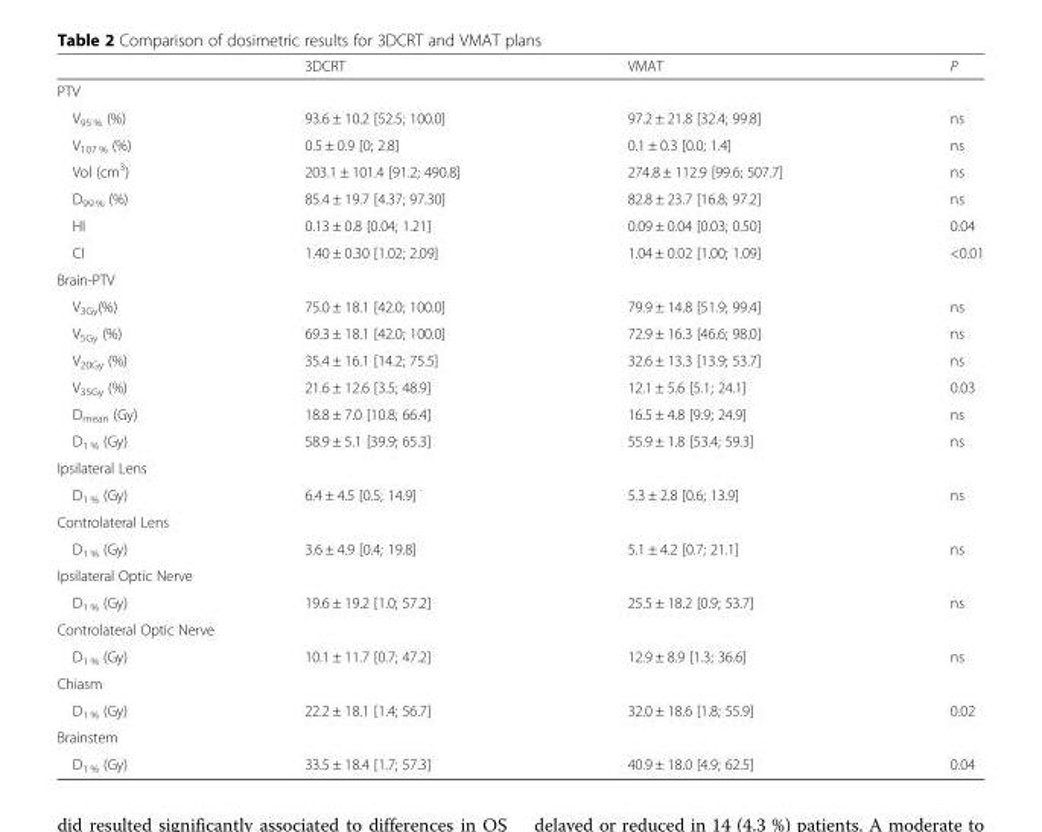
<table><thead><tr><td></td><td>3DCRT</td><td>VMAT</td><td>P</td></tr></thead><tbody><tr><td colspan="4">PTV</td></tr><tr><td>V<sub>95 %</sub> (%)</td><td>93.6 ± 10.2 [52.5; 100.0]</td><td>97.2 ± 21.8 [32.4; 99.8]</td><td>ns</td></tr><tr><td>V<sub>107 %</sub> (%)</td><td>0.5 ± 0.9 [0; 2.8]</td><td>0.1 ± 0.3 [0.0; 1.4]</td><td>ns</td></tr><tr><td>Vol (cm<sup>3</sup>)</td><td>203.1 ± 101.4 [91.2; 490.8]</td><td>274.8 ± 112.9 [99.6; 507.7]</td><td>ns</td></tr><tr><td>D<sub>99 %</sub> (%)</td><td>85.4 ± 19.7 [4.37; 97.30]</td><td>82.8 ± 23.7 [16.8; 97.2]</td><td>ns</td></tr><tr><td>HI</td><td>0.13 ± 0.8 [0.04; 1.21]</td><td>0.09 ± 0.04 [0.03; 0.50]</td><td>0.04</td></tr><tr><td>CI</td><td>1.40 ± 0.30 [1.02; 2.09]</td><td>1.04 ± 0.02 [1.00; 1.09]</td><td>&lt;0.01</td></tr><tr><td colspan="4">Brain-PTV</td></tr><tr><td>V<sub>3Gy</sub>(%)</td><td>75.0 ± 18.1 [42.0; 100.0]</td><td>79.9 ± 14.8 [51.9; 99.4]</td><td>ns</td></tr><tr><td>V<sub>5Gy</sub> (%)</td><td>69.3 ± 18.1 [42.0; 100.0]</td><td>72.9 ± 16.3 [46.6; 98.0]</td><td>ns</td></tr><tr><td>V<sub>20Gy</sub> (%)</td><td>35.4 ± 16.1 [14.2; 75.5]</td><td>32.6 ± 13.3 [13.9; 53.7]</td><td>ns</td></tr><tr><td>V<sub>35Gy</sub> (%)</td><td>21.6 ± 12.6 [3.5; 48.9]</td><td>12.1 ± 5.6 [5.1; 24.1]</td><td>0.03</td></tr><tr><td>D<sub>mean</sub> (Gy)</td><td>18.8 ± 7.0 [10.8; 66.4]</td><td>16.5 ± 4.8 [9.9; 24.9]</td><td>ns</td></tr><tr><td>D<sub>1 %</sub> (Gy)</td><td>58.9 ± 5.1 [39.9; 65.3]</td><td>55.9 ± 1.8 [53.4; 59.3]</td><td>ns</td></tr><tr><td colspan="4">Ipsilateral Lens</td></tr><tr><td>D<sub>1 %</sub> (Gy)</td><td>6.4 ± 4.5 [0.5; 14.9]</td><td>5.3 ± 2.8 [0.6; 13.9]</td><td>ns</td></tr><tr><td colspan="4">Controlateral Lens</td></tr><tr><td>D<sub>1 %</sub> (Gy)</td><td>3.6 ± 4.9 [0.4; 19.8]</td><td>5.1 ± 4.2 [0.7; 21.1]</td><td>ns</td></tr><tr><td colspan="4">Ipsilateral Optic Nerve</td></tr><tr><td>D<sub>1 %</sub> (Gy)</td><td>19.6 ± 19.2 [1.0; 57.2]</td><td>25.5 ± 18.2 [0.9; 53.7]</td><td>ns</td></tr><tr><td colspan="4">Controlateral Optic Nerve</td></tr><tr><td>D<sub>1 %</sub> (Gy)</td><td>10.1 ± 11.7 [0.7; 47.2]</td><td>12.9 ± 8.9 [1.3; 36.6]</td><td>ns</td></tr><tr><td colspan="4">Chiasm</td></tr><tr><td>D<sub>1 %</sub> (Gy)</td><td>22.2 ± 18.1 [1.4; 56.7]</td><td>32.0 ± 18.6 [1.8; 55.9]</td><td>0.02</td></tr><tr><td colspan="4">Brainstem</td></tr><tr><td>D<sub>1 %</sub> (Gy)</td><td>33.5 ± 18.4 [1.7; 57.3]</td><td>40.9 ± 18.0 [4.9; 62.5]</td><td>0.04</td></tr></tbody></table>